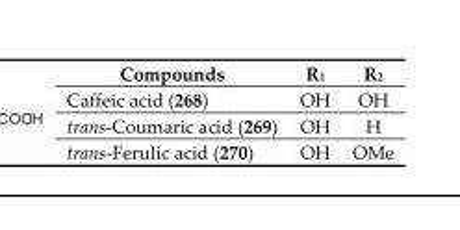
<table><tbody><tr><td>Compounds</td><td>R<sub>1</sub></td><td>R<sub>2</sub></td></tr><tr><td>Caffeic acid (268)</td><td>OH</td><td>OH</td></tr><tr><td>trans-Coumaric acid (269)</td><td>OH</td><td>H</td></tr><tr><td>trans-Ferulic acid (270)</td><td>OH</td><td>OMe</td></tr></tbody></table>